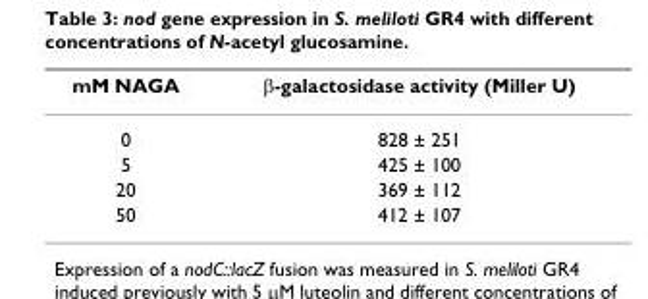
<table><thead><tr><td>mM NAGA</td><td>β-galactosidase activity (Miller U)</td></tr></thead><tbody><tr><td>0</td><td>828 ± 251</td></tr><tr><td>5</td><td>425 ± 100</td></tr><tr><td>20</td><td>369 ± 112</td></tr><tr><td>50</td><td>412 ± 107</td></tr></tbody></table>